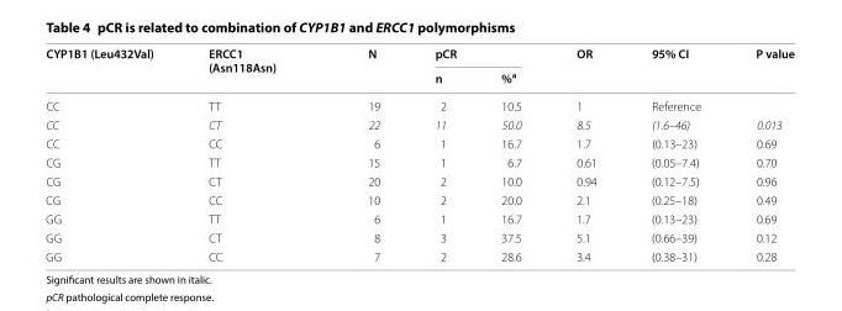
<table><thead><tr><td rowspan="2">CYP1B1 (Leu432Val)</td><td rowspan="2">ERCC1 (Asn118Asn)</td><td rowspan="2">N</td><td colspan="2">pCR</td><td rowspan="2">OR</td><td rowspan="2">95% CI</td><td rowspan="2">P value</td></tr><tr><td>n</td><td>%<sup>a</sup></td></tr></thead><tbody><tr><td>CC</td><td>TT</td><td>19</td><td>2</td><td>10.5</td><td>1</td><td>Reference</td><td></td></tr><tr><td>CC</td><td>CT</td><td>22</td><td>11</td><td>50.0</td><td>8.5</td><td>(1.6–46)</td><td>0.013</td></tr><tr><td>CC</td><td>CC</td><td>6</td><td>1</td><td>16.7</td><td>1.7</td><td>(0.13–23)</td><td>0.69</td></tr><tr><td>CG</td><td>TT</td><td>15</td><td>1</td><td>6.7</td><td>0.61</td><td>(0.05–7.4)</td><td>0.70</td></tr><tr><td>CG</td><td>CT</td><td>20</td><td>2</td><td>10.0</td><td>0.94</td><td>(0.12–7.5)</td><td>0.96</td></tr><tr><td>CG</td><td>CC</td><td>10</td><td>2</td><td>20.0</td><td>2.1</td><td>(0.25–18)</td><td>0.49</td></tr><tr><td>GG</td><td>TT</td><td>6</td><td>1</td><td>16.7</td><td>1.7</td><td>(0.13–23)</td><td>0.69</td></tr><tr><td>GG</td><td>CT</td><td>8</td><td>3</td><td>37.5</td><td>5.1</td><td>(0.66–39)</td><td>0.12</td></tr><tr><td>GG</td><td>CC</td><td>7</td><td>2</td><td>28.6</td><td>3.4</td><td>(0.38–31)</td><td>0.28</td></tr></tbody></table>